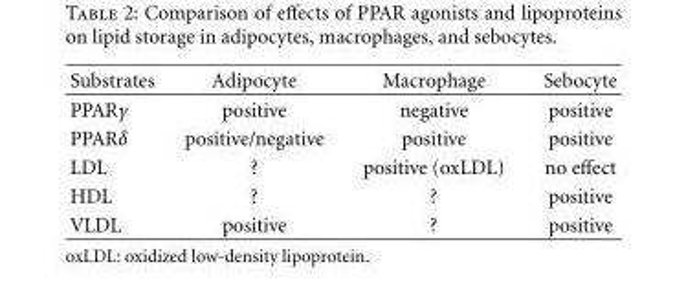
<table><thead><tr><td>Substrates</td><td>Adipocyte</td><td>Macrophage</td><td>Sebocyte</td></tr></thead><tbody><tr><td>PPARγ</td><td>positive</td><td>negative</td><td>positive</td></tr><tr><td>PPARδ</td><td>positive/negative</td><td>positive</td><td>positive</td></tr><tr><td>LDL</td><td>?</td><td>positive (oxLDL)</td><td>no effect</td></tr><tr><td>HDL</td><td>?</td><td>?</td><td>positive</td></tr><tr><td>VLDL</td><td>positive</td><td>?</td><td>positive</td></tr></tbody></table>